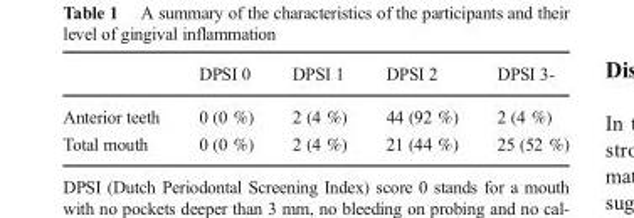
<table><thead><tr><td></td><td>DPSI 0</td><td>DPSI 1</td><td>DPSI 2</td><td>DPSI 3-</td></tr></thead><tbody><tr><td>Anterior teeth</td><td>0 (0 %)</td><td>2 (4 %)</td><td>44 (92 %)</td><td>2 (4 %)</td></tr><tr><td>Total mouth</td><td>0 (0 %)</td><td>2 (4 %)</td><td>21 (44 %)</td><td>25 (52 %)</td></tr></tbody></table>